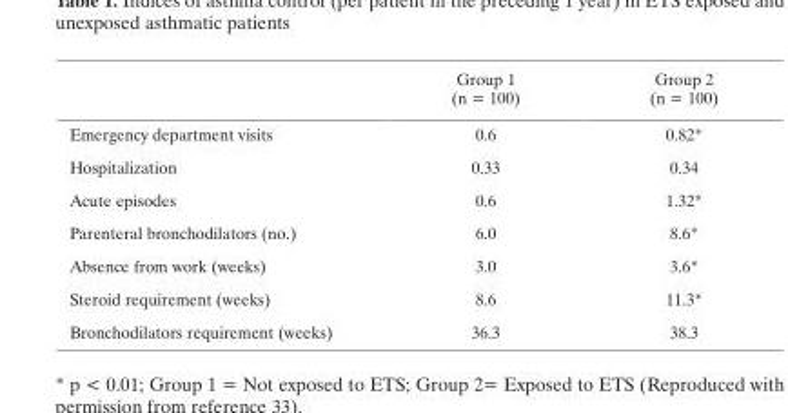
<table><thead><tr><td></td><td>Group 1 (n = 100)</td><td>Group 2 (n = 100)</td></tr></thead><tbody><tr><td>Emergency department visits</td><td>0.6</td><td>0.82*</td></tr><tr><td>Hospitalization</td><td>0.33</td><td>0.34</td></tr><tr><td>Acute episodes</td><td>0.6</td><td>1.32*</td></tr><tr><td>Parenteral bronchodilators (no.)</td><td>6.0</td><td>8.6*</td></tr><tr><td>Absence from work (weeks)</td><td>3.0</td><td>3.6*</td></tr><tr><td>Steroid requirement (weeks)</td><td>8.6</td><td>11.3*</td></tr><tr><td>Bronchodilators requirement (weeks)</td><td>36.3</td><td>38.3</td></tr></tbody></table>